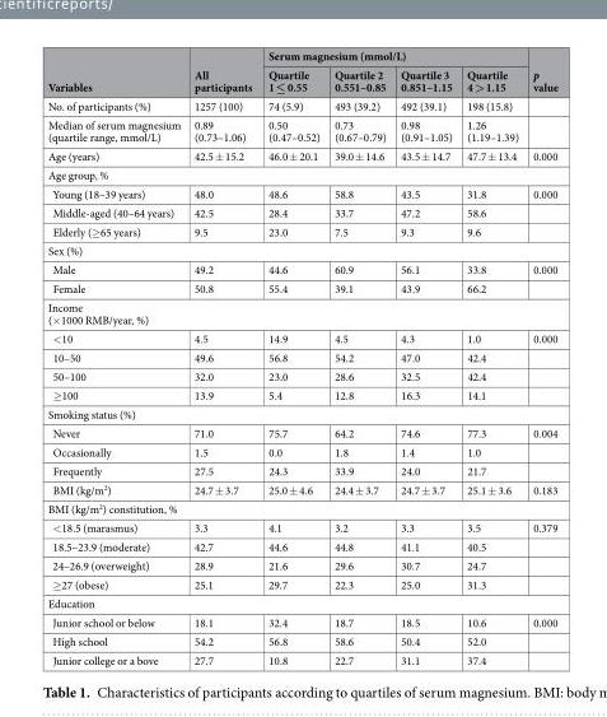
<table><thead><tr><td rowspan="2">Variables</td><td rowspan="2">All participants</td><td colspan="4">Serum magnesium (mmol/L)</td><td rowspan="2">p value</td></tr><tr><td>Quartile 1 ≤ 0.55</td><td>Quartile 2 0.551–0.85</td><td>Quartile 3 0.851–1.15</td><td>Quartile 4 &gt; 1.15</td></tr></thead><tbody><tr><td>No. of participants (%)</td><td>1257 (100)</td><td>74 (5.9)</td><td>493 (39.2)</td><td>492 (39.1)</td><td>198 (15.8)</td><td></td></tr><tr><td>Median of serum magnesium (quartile range, mmol/L)</td><td>0.89 (0.73–1.06)</td><td>0.50 (0.47–0.52)</td><td>0.73 (0.67–0.79)</td><td>0.98 (0.91–1.05)</td><td>1.26 (1.19–1.39)</td><td></td></tr><tr><td>Age (years)</td><td>42.5 ± 15.2</td><td>46.0 ± 20.1</td><td>39.0 ± 14.6</td><td>43.5 ± 14.7</td><td>47.7 ± 13.4</td><td>0.000</td></tr><tr><td colspan="7">Age group, %</td></tr><tr><td>Young (18–39 years)</td><td>48.0</td><td>48.6</td><td>58.8</td><td>43.5</td><td>31.8</td><td>0.000</td></tr><tr><td>Middle-aged (40–64 years)</td><td>42.5</td><td>28.4</td><td>33.7</td><td>47.2</td><td>58.6</td><td></td></tr><tr><td>Elderly (≥65 years)</td><td>9.5</td><td>23.0</td><td>7.5</td><td>9.3</td><td>9.6</td><td></td></tr><tr><td colspan="7">Sex (%)</td></tr><tr><td>Male</td><td>49.2</td><td>44.6</td><td>60.9</td><td>56.1</td><td>33.8</td><td>0.000</td></tr><tr><td>Female</td><td>50.8</td><td>55.4</td><td>39.1</td><td>43.9</td><td>66.2</td><td></td></tr><tr><td colspan="7">Income (×1000 RMB/year, %)</td></tr><tr><td>&lt;10</td><td>4.5</td><td>14.9</td><td>4.5</td><td>4.3</td><td>1.0</td><td>0.000</td></tr><tr><td>10–50</td><td>49.6</td><td>56.8</td><td>54.2</td><td>47.0</td><td>42.4</td><td></td></tr><tr><td>50–100</td><td>32.0</td><td>23.0</td><td>28.6</td><td>32.5</td><td>42.4</td><td></td></tr><tr><td>≥100</td><td>13.9</td><td>5.4</td><td>12.8</td><td>16.3</td><td>14.1</td><td></td></tr><tr><td colspan="7">Smoking status (%)</td></tr><tr><td>Never</td><td>71.0</td><td>75.7</td><td>64.2</td><td>74.6</td><td>77.3</td><td>0.004</td></tr><tr><td>Occasionally</td><td>1.5</td><td>0.0</td><td>1.8</td><td>1.4</td><td>1.0</td><td></td></tr><tr><td>Frequently</td><td>27.5</td><td>24.3</td><td>33.9</td><td>24.0</td><td>21.7</td><td></td></tr><tr><td>BMI (kg/m<sup>2</sup>)</td><td>24.7 ± 3.7</td><td>25.0 ± 4.6</td><td>24.4 ± 3.7</td><td>24.7 ± 3.7</td><td>25.1 ± 3.6</td><td>0.183</td></tr><tr><td colspan="7">BMI (kg/m<sup>2</sup>) constitution, %</td></tr><tr><td>&lt;18.5 (marasmus)</td><td>3.3</td><td>4.1</td><td>3.2</td><td>3.3</td><td>3.5</td><td>0.379</td></tr><tr><td>18.5–23.9 (moderate)</td><td>42.7</td><td>44.6</td><td>44.8</td><td>41.1</td><td>40.5</td><td></td></tr><tr><td>24–26.9 (overweight)</td><td>28.9</td><td>21.6</td><td>29.6</td><td>30.7</td><td>24.7</td><td></td></tr><tr><td>≥27 (obese)</td><td>25.1</td><td>29.7</td><td>22.3</td><td>25.0</td><td>31.3</td><td></td></tr><tr><td colspan="7">Education</td></tr><tr><td>Junior school or below</td><td>18.1</td><td>32.4</td><td>18.7</td><td>18.5</td><td>10.6</td><td>0.000</td></tr><tr><td>High school</td><td>54.2</td><td>56.8</td><td>58.6</td><td>50.4</td><td>52.0</td><td></td></tr><tr><td>Junior college or a bove</td><td>27.7</td><td>10.8</td><td>22.7</td><td>31.1</td><td>37.4</td><td></td></tr></tbody></table>